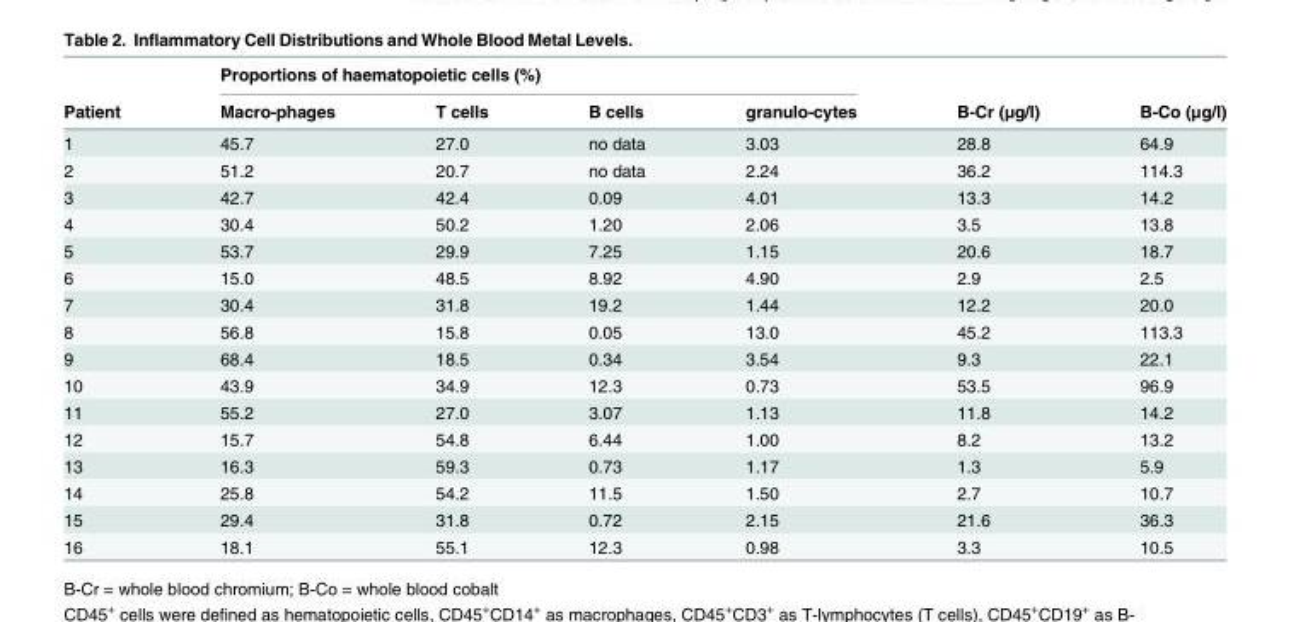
<table><thead><tr><td rowspan="2">Patient</td><td colspan="4">Proportions of haematopoietic cells (%)</td><td rowspan="2">B-Cr (μg/l)</td><td rowspan="2">B-Co (μg/l)</td></tr><tr><td>Macro-phages</td><td>T cells</td><td>B cells</td><td>granulo-cytes</td></tr></thead><tbody><tr><td>1</td><td>45.7</td><td>27.0</td><td>no data</td><td>3.03</td><td>28.8</td><td>64.9</td></tr><tr><td>2</td><td>51.2</td><td>20.7</td><td>no data</td><td>2.24</td><td>36.2</td><td>114.3</td></tr><tr><td>3</td><td>42.7</td><td>42.4</td><td>0.09</td><td>4.01</td><td>13.3</td><td>14.2</td></tr><tr><td>4</td><td>30.4</td><td>50.2</td><td>1.20</td><td>2.06</td><td>3.5</td><td>13.8</td></tr><tr><td>5</td><td>53.7</td><td>29.9</td><td>7.25</td><td>1.15</td><td>20.6</td><td>18.7</td></tr><tr><td>6</td><td>15.0</td><td>48.5</td><td>8.92</td><td>4.90</td><td>2.9</td><td>2.5</td></tr><tr><td>7</td><td>30.4</td><td>31.8</td><td>19.2</td><td>1.44</td><td>12.2</td><td>20.0</td></tr><tr><td>8</td><td>56.8</td><td>15.8</td><td>0.05</td><td>13.0</td><td>45.2</td><td>113.3</td></tr><tr><td>9</td><td>68.4</td><td>18.5</td><td>0.34</td><td>3.54</td><td>9.3</td><td>22.1</td></tr><tr><td>10</td><td>43.9</td><td>34.9</td><td>12.3</td><td>0.73</td><td>53.5</td><td>96.9</td></tr><tr><td>11</td><td>55.2</td><td>27.0</td><td>3.07</td><td>1.13</td><td>11.8</td><td>14.2</td></tr><tr><td>12</td><td>15.7</td><td>54.8</td><td>6.44</td><td>1.00</td><td>8.2</td><td>13.2</td></tr><tr><td>13</td><td>16.3</td><td>59.3</td><td>0.73</td><td>1.17</td><td>1.3</td><td>5.9</td></tr><tr><td>14</td><td>25.8</td><td>54.2</td><td>11.5</td><td>1.50</td><td>2.7</td><td>10.7</td></tr><tr><td>15</td><td>29.4</td><td>31.8</td><td>0.72</td><td>2.15</td><td>21.6</td><td>36.3</td></tr><tr><td>16</td><td>18.1</td><td>55.1</td><td>12.3</td><td>0.98</td><td>3.3</td><td>10.5</td></tr></tbody></table>